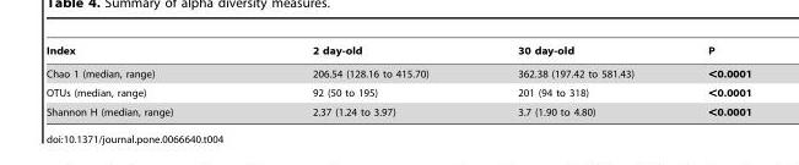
<table><thead><tr><td>Index</td><td>2 day-old</td><td>30 day-old</td><td>P</td></tr></thead><tbody><tr><td>Chao 1 (median, range)</td><td>206.54 (128.16 to 415.70)</td><td>362.38 (197.42 to 581.43)</td><td>&lt;0.0001</td></tr><tr><td>OTUs (median, range)</td><td>92 (50 to 195)</td><td>201 (94 to 318)</td><td>&lt;0.0001</td></tr><tr><td>Shannon H (median, range)</td><td>2.37 (1.24 to 3.97)</td><td>3.7 (1.90 to 4.80)</td><td>&lt;0.0001</td></tr></tbody></table>